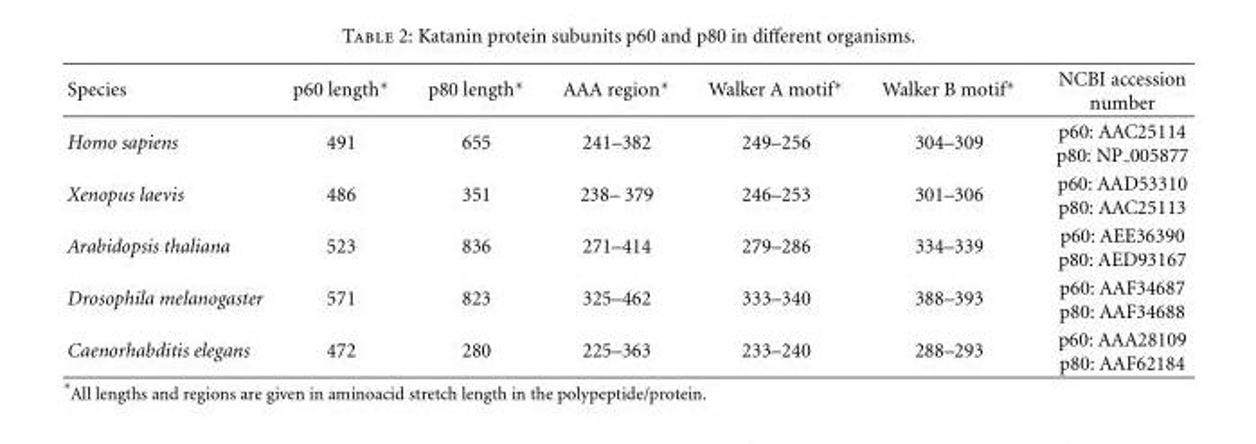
<table><thead><tr><td>Species</td><td>p60 length∗</td><td>p80 length∗</td><td>AAA region∗</td><td>Walker A motif∗</td><td>Walker B motif∗</td><td>NCBI accession number</td></tr></thead><tbody><tr><td>Homo sapiens</td><td>491</td><td>655</td><td>241–382</td><td>249–256</td><td>304–309</td><td>p60: AAC25114 p80: NP 005877</td></tr><tr><td>Xenopus laevis</td><td>486</td><td>351</td><td>238– 379</td><td>246–253</td><td>301–306</td><td>p60: AAD53310 p80: AAC25113</td></tr><tr><td>Arabidopsis thaliana</td><td>523</td><td>836</td><td>271–414</td><td>279–286</td><td>334–339</td><td>p60: AEE36390 p80: AED93167</td></tr><tr><td>Drosophila melanogaster</td><td>571</td><td>823</td><td>325–462</td><td>333–340</td><td>388–393</td><td>p60: AAF34687 p80: AAF34688</td></tr><tr><td>Caenorhabditis elegans</td><td>472</td><td>280</td><td>225–363</td><td>233–240</td><td>288–293</td><td>p60: AAA28109 p80: AAF62184</td></tr></tbody></table>